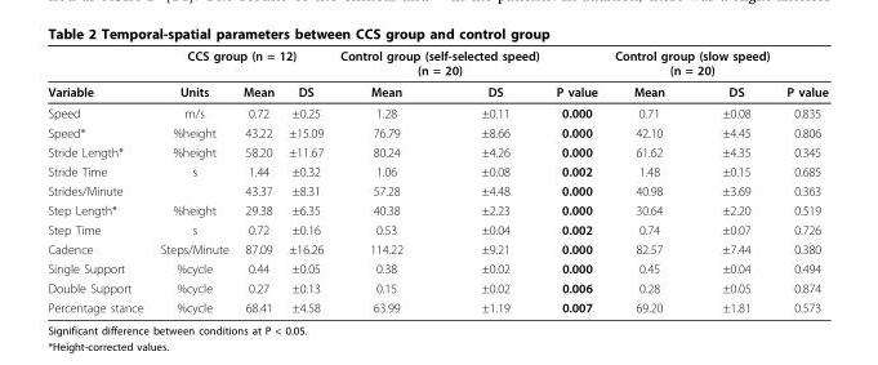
<table><thead><tr><td rowspan="2">Variable</td><td colspan="3">CCS group (n = 12)</td><td colspan="2">Control group (self-selected speed) (n = 20)</td><td rowspan="2">P value</td><td colspan="2">Control group (slow speed) (n = 20)</td><td rowspan="2">P value</td></tr><tr><td>Units</td><td>Mean</td><td>DS</td><td>Mean</td><td>DS</td><td>Mean</td><td>DS</td></tr></thead><tbody><tr><td>Speed</td><td>m/s</td><td>0.72</td><td>±0.25</td><td>1.28</td><td>±0.11</td><td>0.000</td><td>0.71</td><td>±0.08</td><td>0.835</td></tr><tr><td>Speed*</td><td>%height</td><td>43.22</td><td>±15.09</td><td>76.79</td><td>±8.66</td><td>0.000</td><td>42.10</td><td>±4.45</td><td>0.806</td></tr><tr><td>Stride Length*</td><td>%height</td><td>58.20</td><td>±11.67</td><td>80.24</td><td>±4.26</td><td>0.000</td><td>61.62</td><td>±4.35</td><td>0.345</td></tr><tr><td>Stride Time</td><td>s</td><td>1.44</td><td>±0.32</td><td>1.06</td><td>±0.08</td><td>0.002</td><td>1.48</td><td>±0.15</td><td>0.685</td></tr><tr><td>Strides/Minute</td><td></td><td>43.37</td><td>±8.31</td><td>57.28</td><td>±4.48</td><td>0.000</td><td>40.98</td><td>±3.69</td><td>0.363</td></tr><tr><td>Step Length*</td><td>%height</td><td>29.38</td><td>±6.35</td><td>40.38</td><td>±2.23</td><td>0.000</td><td>30.64</td><td>±2.20</td><td>0.519</td></tr><tr><td>Step Time</td><td>s</td><td>0.72</td><td>±0.16</td><td>0.53</td><td>±0.04</td><td>0.002</td><td>0.74</td><td>±0.07</td><td>0.726</td></tr><tr><td>Cadence</td><td>Steps/Minute</td><td>87.09</td><td>±16.26</td><td>114.22</td><td>±9.21</td><td>0.000</td><td>82.57</td><td>±7.44</td><td>0.380</td></tr><tr><td>Single Support</td><td>%cycle</td><td>0.44</td><td>±0.05</td><td>0.38</td><td>±0.02</td><td>0.000</td><td>0.45</td><td>±0.04</td><td>0.494</td></tr><tr><td>Double Support</td><td>%cycle</td><td>0.27</td><td>±0.13</td><td>0.15</td><td>±0.02</td><td>0.006</td><td>0.28</td><td>±0.05</td><td>0.874</td></tr><tr><td>Percentage stance</td><td>%cycle</td><td>68.41</td><td>±4.58</td><td>63.99</td><td>±1.19</td><td>0.007</td><td>69.20</td><td>±1.81</td><td>0.573</td></tr></tbody></table>